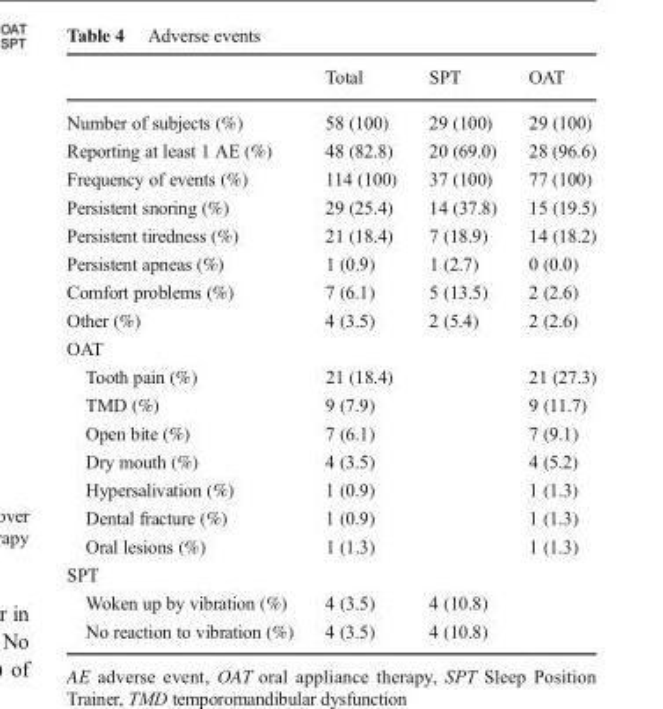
<table><thead><tr><td></td><td>Total</td><td>SPT</td><td>OAT</td></tr></thead><tbody><tr><td>Number of subjects (%)</td><td>58 (100)</td><td>29 (100)</td><td>29 (100)</td></tr><tr><td>Reporting at least 1 AE (%)</td><td>48 (82.8)</td><td>20 (69.0)</td><td>28 (96.6)</td></tr><tr><td>Frequency of events (%)</td><td>114 (100)</td><td>37 (100)</td><td>77 (100)</td></tr><tr><td>Persistent snoring (%)</td><td>29 (25.4)</td><td>14 (37.8)</td><td>15 (19.5)</td></tr><tr><td>Persistent tiredness (%)</td><td>21 (18.4)</td><td>7 (18.9)</td><td>14 (18.2)</td></tr><tr><td>Persistent apneas (%)</td><td>1 (0.9)</td><td>1 (2.7)</td><td>0 (0.0)</td></tr><tr><td>Comfort problems (%)</td><td>7 (6.1)</td><td>5 (13.5)</td><td>2 (2.6)</td></tr><tr><td>Other (%)</td><td>4 (3.5)</td><td>2 (5.4)</td><td>2 (2.6)</td></tr><tr><td colspan="4">OAT</td></tr><tr><td>Tooth pain (%)</td><td>21 (18.4)</td><td></td><td>21 (27.3)</td></tr><tr><td>TMD (%)</td><td>9 (7.9)</td><td></td><td>9 (11.7)</td></tr><tr><td>Open bite (%)</td><td>7 (6.1)</td><td></td><td>7 (9.1)</td></tr><tr><td>Dry mouth (%)</td><td>4 (3.5)</td><td></td><td>4 (5.2)</td></tr><tr><td>Hypersalivation (%)</td><td>1 (0.9)</td><td></td><td>1 (1.3)</td></tr><tr><td>Dental fracture (%)</td><td>1 (0.9)</td><td></td><td>1 (1.3)</td></tr><tr><td>Oral lesions (%)</td><td>1 (1.3)</td><td></td><td>1 (1.3)</td></tr><tr><td colspan="4">SPT</td></tr><tr><td>Woken up by vibration (%)</td><td>4 (3.5)</td><td>4 (10.8)</td><td></td></tr><tr><td>No reaction to vibration (%)</td><td>4 (3.5)</td><td>4 (10.8)</td><td></td></tr></tbody></table>